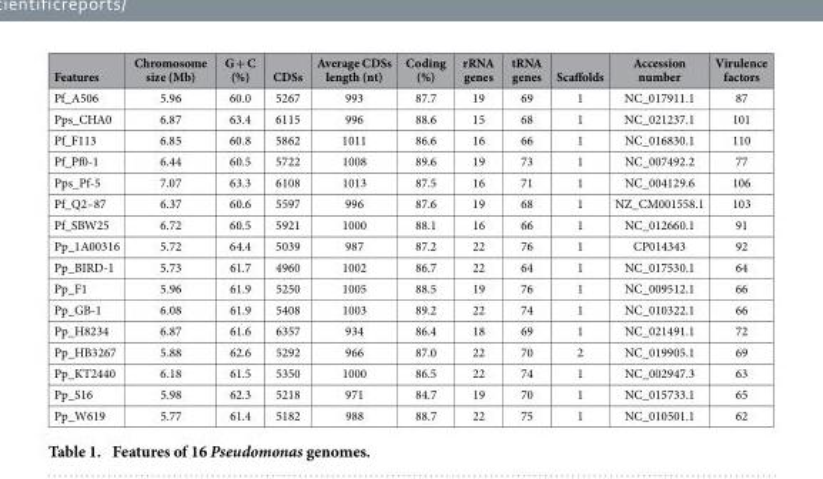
<table><thead><tr><td>Features</td><td>Chromosome size (Mb)</td><td>G + C (%)</td><td>CDSs</td><td>Average CDSs length (nt)</td><td>Coding (%)</td><td>rRNA genes</td><td>tRNA genes</td><td>Scaffolds</td><td>Accession number</td><td>Virulence factors</td></tr></thead><tbody><tr><td>Pf_A506</td><td>5.96</td><td>60.0</td><td>5267</td><td>993</td><td>87.7</td><td>19</td><td>69</td><td>1</td><td>NC_017911.1</td><td>87</td></tr><tr><td>Pps_CHA0</td><td>6.87</td><td>63.4</td><td>6115</td><td>996</td><td>88.6</td><td>15</td><td>68</td><td>1</td><td>NC_021237.1</td><td>101</td></tr><tr><td>Pf_F113</td><td>6.85</td><td>60.8</td><td>5862</td><td>1011</td><td>86.6</td><td>16</td><td>66</td><td>1</td><td>NC_016830.1</td><td>110</td></tr><tr><td>Pf_Pf0-1</td><td>6.44</td><td>60.5</td><td>5722</td><td>1008</td><td>89.6</td><td>19</td><td>73</td><td>1</td><td>NC_007492.2</td><td>77</td></tr><tr><td>Pps_Pf-5</td><td>7.07</td><td>63.3</td><td>6108</td><td>1013</td><td>87.5</td><td>16</td><td>71</td><td>1</td><td>NC_004129.6</td><td>106</td></tr><tr><td>Pf_Q2–87</td><td>6.37</td><td>60.6</td><td>5597</td><td>996</td><td>87.6</td><td>19</td><td>68</td><td>1</td><td>NZ_CM001558.1</td><td>103</td></tr><tr><td>Pf_SBW25</td><td>6.72</td><td>60.5</td><td>5921</td><td>1000</td><td>88.1</td><td>16</td><td>66</td><td>1</td><td>NC_012660.1</td><td>91</td></tr><tr><td>Pp_1A00316</td><td>5.72</td><td>64.4</td><td>5039</td><td>987</td><td>87.2</td><td>22</td><td>76</td><td>1</td><td>CP014343</td><td>92</td></tr><tr><td>Pp_BIRD-1</td><td>5.73</td><td>61.7</td><td>4960</td><td>1002</td><td>86.7</td><td>22</td><td>64</td><td>1</td><td>NC_017530.1</td><td>64</td></tr><tr><td>Pp_F1</td><td>5.96</td><td>61.9</td><td>5250</td><td>1005</td><td>88.5</td><td>19</td><td>76</td><td>1</td><td>NC_009512.1</td><td>66</td></tr><tr><td>Pp_GB-1</td><td>6.08</td><td>61.9</td><td>5408</td><td>1003</td><td>89.2</td><td>22</td><td>74</td><td>1</td><td>NC_010322.1</td><td>66</td></tr><tr><td>Pp_H8234</td><td>6.87</td><td>61.6</td><td>6357</td><td>934</td><td>86.4</td><td>18</td><td>69</td><td>1</td><td>NC_021491.1</td><td>72</td></tr><tr><td>Pp_HB3267</td><td>5.88</td><td>62.6</td><td>5292</td><td>966</td><td>87.0</td><td>22</td><td>70</td><td>2</td><td>NC_019905.1</td><td>69</td></tr><tr><td>Pp_KT2440</td><td>6.18</td><td>61.5</td><td>5350</td><td>1000</td><td>86.5</td><td>22</td><td>74</td><td>1</td><td>NC_002947.3</td><td>63</td></tr><tr><td>Pp_S16</td><td>5.98</td><td>62.3</td><td>5218</td><td>971</td><td>84.7</td><td>19</td><td>70</td><td>1</td><td>NC_015733.1</td><td>65</td></tr><tr><td>Pp_W619</td><td>5.77</td><td>61.4</td><td>5182</td><td>988</td><td>88.7</td><td>22</td><td>75</td><td>1</td><td>NC_010501.1</td><td>62</td></tr></tbody></table>